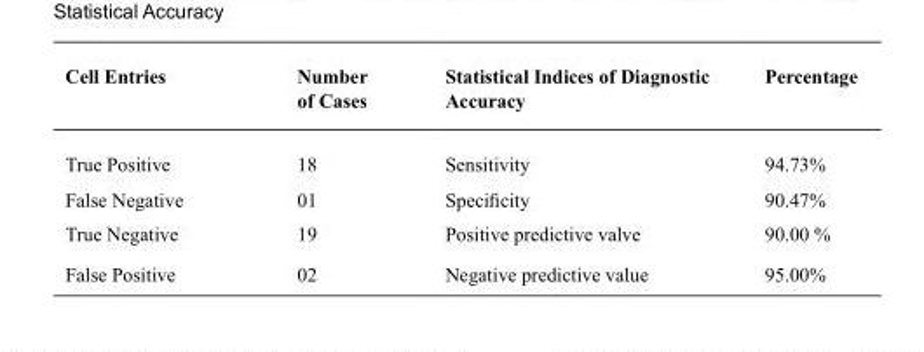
<table><thead><tr><td>Cell Entries</td><td>Number of Cases</td><td>Statistical Indices of Diagnostic Accuracy</td><td>Percentage</td></tr></thead><tbody><tr><td>True Positive</td><td>18</td><td>Sensitivity</td><td>94.73%</td></tr><tr><td>False Negative</td><td>01</td><td>Specificity</td><td>90.47%</td></tr><tr><td>True Negative</td><td>19</td><td>Positive predictive valve</td><td>90.00 %</td></tr><tr><td>False Positive</td><td>02</td><td>Negative predictive value</td><td>95.00%</td></tr></tbody></table>